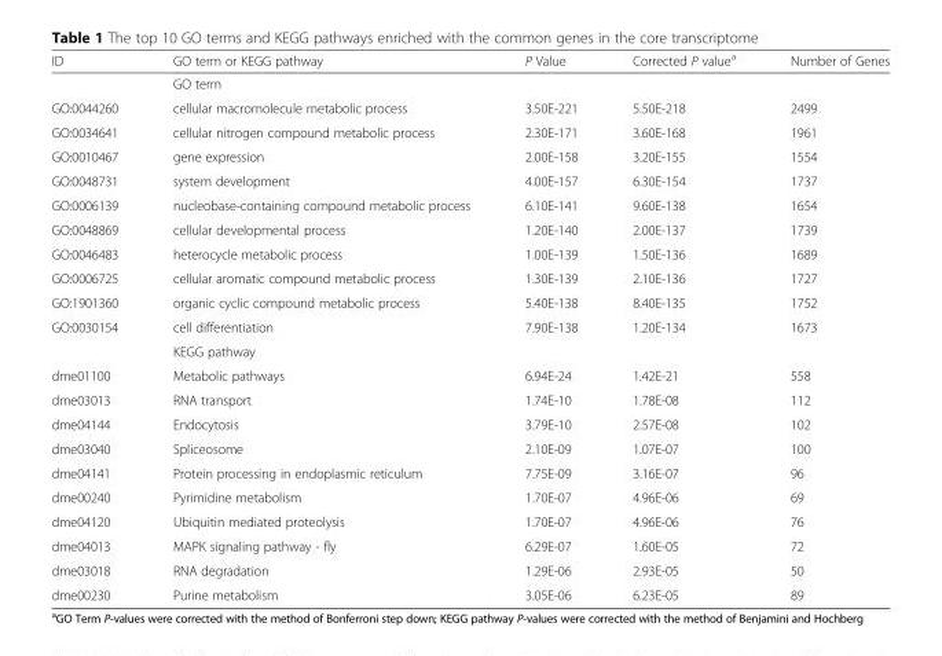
<table><thead><tr><td>ID</td><td>GO term or KEGG pathway</td><td>P Value</td><td>Corrected P value<sup>a</sup></td><td>Number of Genes</td></tr></thead><tbody><tr><td></td><td>GO term</td><td></td><td></td><td></td></tr><tr><td>GO:0044260</td><td>cellular macromolecule metabolic process</td><td>3.50E-221</td><td>5.50E-218</td><td>2499</td></tr><tr><td>GO:0034641</td><td>cellular nitrogen compound metabolic process</td><td>2.30E-171</td><td>3.60E-168</td><td>1961</td></tr><tr><td>GO:0010467</td><td>gene expression</td><td>2.00E-158</td><td>3.20E-155</td><td>1554</td></tr><tr><td>GO:0048731</td><td>system development</td><td>4.00E-157</td><td>6.30E-154</td><td>1737</td></tr><tr><td>GO:0006139</td><td>nucleobase-containing compound metabolic process</td><td>6.10E-141</td><td>9.60E-138</td><td>1654</td></tr><tr><td>GO:0048869</td><td>cellular developmental process</td><td>1.20E-140</td><td>2.00E-137</td><td>1739</td></tr><tr><td>GO:0046483</td><td>heterocycle metabolic process</td><td>1.00E-139</td><td>1.50E-136</td><td>1689</td></tr><tr><td>GO:0006725</td><td>cellular aromatic compound metabolic process</td><td>1.30E-139</td><td>2.10E-136</td><td>1727</td></tr><tr><td>GO:1901360</td><td>organic cyclic compound metabolic process</td><td>5.40E-138</td><td>8.40E-135</td><td>1752</td></tr><tr><td rowspan="2">GO:0030154</td><td>cell differentiation</td><td>7.90E-138</td><td>1.20E-134</td><td>1673</td></tr><tr><td>KEGG pathway</td><td></td><td></td><td></td></tr><tr><td>dme01100</td><td>Metabolic pathways</td><td>6.94E-24</td><td>1.42E-21</td><td>558</td></tr><tr><td>dme03013</td><td>RNA transport</td><td>1.74E-10</td><td>1.78E-08</td><td>112</td></tr><tr><td>dme04144</td><td>Endocytosis</td><td>3.79E-10</td><td>2.57E-08</td><td>102</td></tr><tr><td>dme03040</td><td>Spliceosome</td><td>2.10E-09</td><td>1.07E-07</td><td>100</td></tr><tr><td>dme04141</td><td>Protein processing in endoplasmic reticulum</td><td>7.75E-09</td><td>3.16E-07</td><td>96</td></tr><tr><td>dme00240</td><td>Pyrimidine metabolism</td><td>1.70E-07</td><td>4.96E-06</td><td>69</td></tr><tr><td>dme04120</td><td>Ubiquitin mediated proteolysis</td><td>1.70E-07</td><td>4.96E-06</td><td>76</td></tr><tr><td>dme04013</td><td>MAPK signaling pathway - fly</td><td>6.29E-07</td><td>1.60E-05</td><td>72</td></tr><tr><td>dme03018</td><td>RNA degradation</td><td>1.29E-06</td><td>2.93E-05</td><td>50</td></tr><tr><td>dme00230</td><td>Purine metabolism</td><td>3.05E-06</td><td>6.23E-05</td><td>89</td></tr></tbody></table>